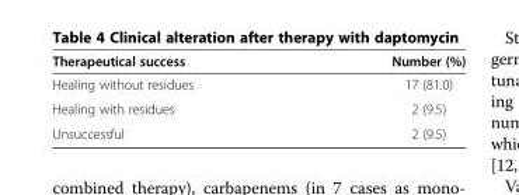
<table><thead><tr><td>Therapeutical success</td><td>Number (%)</td></tr></thead><tbody><tr><td>Healing without residues</td><td>17 (81.0)</td></tr><tr><td>Healing with residues</td><td>2 (9.5)</td></tr><tr><td>Unsuccessful</td><td>2 (9.5)</td></tr></tbody></table>